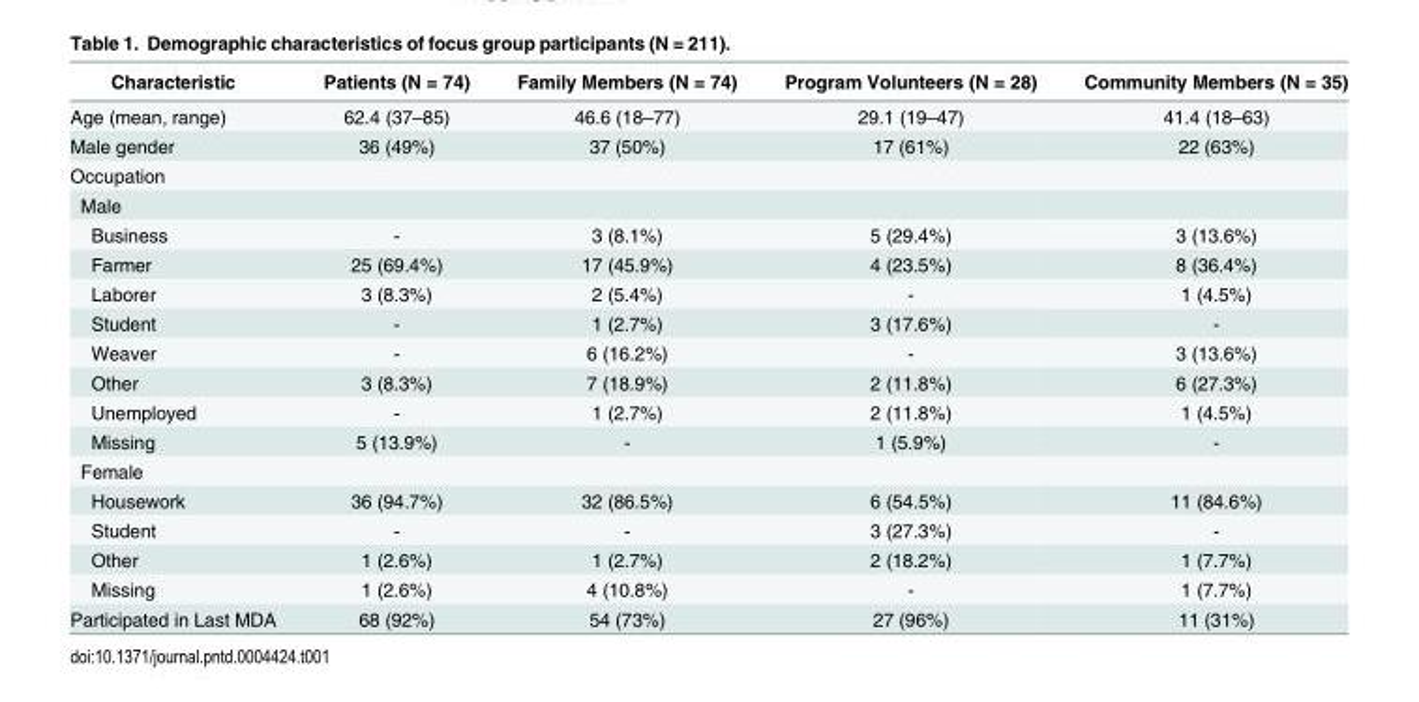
<table><thead><tr><td>Characteristic</td><td>Patients (N = 74)</td><td>Family Members (N = 74)</td><td>Program Volunteers (N = 28)</td><td>Community Members (N = 35)</td></tr></thead><tbody><tr><td>Age (mean, range)</td><td>62.4 (37–85)</td><td>46.6 (18–77)</td><td>29.1 (19–47)</td><td>41.4 (18–63)</td></tr><tr><td>Male gender</td><td>36 (49%)</td><td>37 (50%)</td><td>17 (61%)</td><td>22 (63%)</td></tr><tr><td colspan="5">Occupation</td></tr><tr><td colspan="5">Male</td></tr><tr><td>Business</td><td>-</td><td>3 (8.1%)</td><td>5 (29.4%)</td><td>3 (13.6%)</td></tr><tr><td>Farmer</td><td>25 (69.4%)</td><td>17 (45.9%)</td><td>4 (23.5%)</td><td>8 (36.4%)</td></tr><tr><td>Laborer</td><td>3 (8.3%)</td><td>2 (5.4%)</td><td>-</td><td>1 (4.5%)</td></tr><tr><td>Student</td><td>-</td><td>1 (2.7%)</td><td>3 (17.6%)</td><td>-</td></tr><tr><td>Weaver</td><td>-</td><td>6 (16.2%)</td><td>-</td><td>3 (13.6%)</td></tr><tr><td>Other</td><td>3 (8.3%)</td><td>7 (18.9%)</td><td>2 (11.8%)</td><td>6 (27.3%)</td></tr><tr><td>Unemployed</td><td>-</td><td>1 (2.7%)</td><td>2 (11.8%)</td><td>1 (4.5%)</td></tr><tr><td>Missing</td><td>5 (13.9%)</td><td>-</td><td>1 (5.9%)</td><td>-</td></tr><tr><td colspan="5">Female</td></tr><tr><td>Housework</td><td>36 (94.7%)</td><td>32 (86.5%)</td><td>6 (54.5%)</td><td>11 (84.6%)</td></tr><tr><td>Student</td><td>-</td><td>-</td><td>3 (27.3%)</td><td>-</td></tr><tr><td>Other</td><td>1 (2.6%)</td><td>1 (2.7%)</td><td>2 (18.2%)</td><td>1 (7.7%)</td></tr><tr><td>Missing</td><td>1 (2.6%)</td><td>4 (10.8%)</td><td>-</td><td>1 (7.7%)</td></tr><tr><td>Participated in Last MDA</td><td>68 (92%)</td><td>54 (73%)</td><td>27 (96%)</td><td>11 (31%)</td></tr></tbody></table>